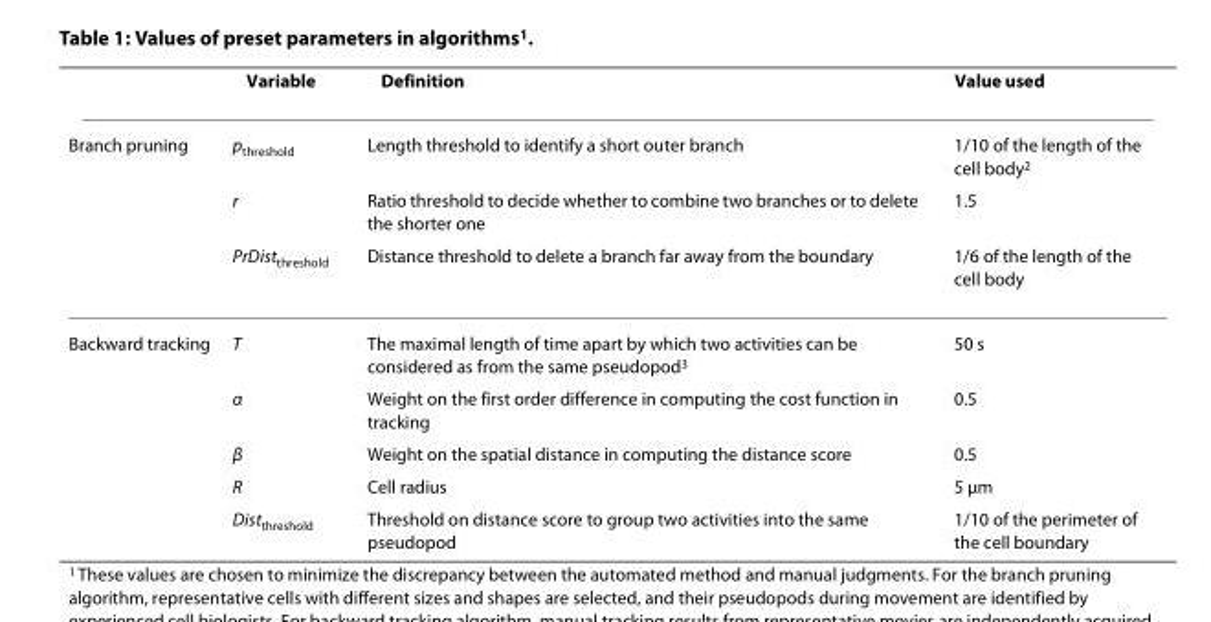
<table><thead><tr><td></td><td>Variable</td><td>Definition</td><td>Value used</td></tr></thead><tbody><tr><td rowspan="3">Branch pruning</td><td>p<sub>threshold</sub></td><td>Length threshold to identify a short outer branch</td><td>1/10 of the length of the cell body<sup>2</sup></td></tr><tr><td>r</td><td>Ratio threshold to decide whether to combine two branches or to delete the shorter one</td><td>1.5</td></tr><tr><td>PrDist<sub>threshold</sub></td><td>Distance threshold to delete a branch far away from the boundary</td><td>1/6 of the length of the cell body</td></tr><tr><td rowspan="5">Backward tracking</td><td>T</td><td>The maximal length of time apart by which two activities can be considered as from the same pseudopod<sup>3</sup></td><td>50 s</td></tr><tr><td>α</td><td>Weight on the first order difference in computing the cost function in tracking</td><td>0.5</td></tr><tr><td>β</td><td>Weight on the spatial distance in computing the distance score</td><td>0.5</td></tr><tr><td>R</td><td>Cell radius</td><td>5 μm</td></tr><tr><td>Dist<sub>threshold</sub></td><td>Threshold on distance score to group two activities into the same pseudopod</td><td>1/10 of the perimeter of the cell boundary</td></tr></tbody></table>